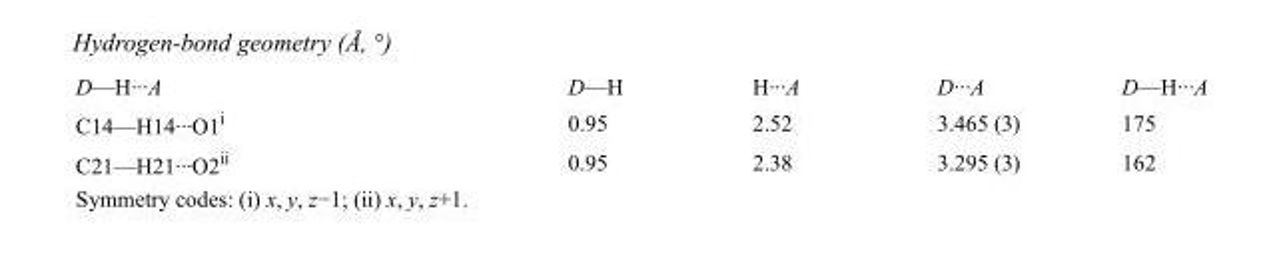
<table><tbody><tr><td>D—H···A</td><td>D—H</td><td>H···A</td><td>D···A</td><td>D—H···A</td></tr><tr><td>C14—H14···O1<sup>i</sup></td><td>0.95</td><td>2.52</td><td>3.465 (3)</td><td>175</td></tr><tr><td>C21—H21···O2<sup>ii</sup></td><td>0.95</td><td>2.38</td><td>3.295 (3)</td><td>162</td></tr></tbody></table>